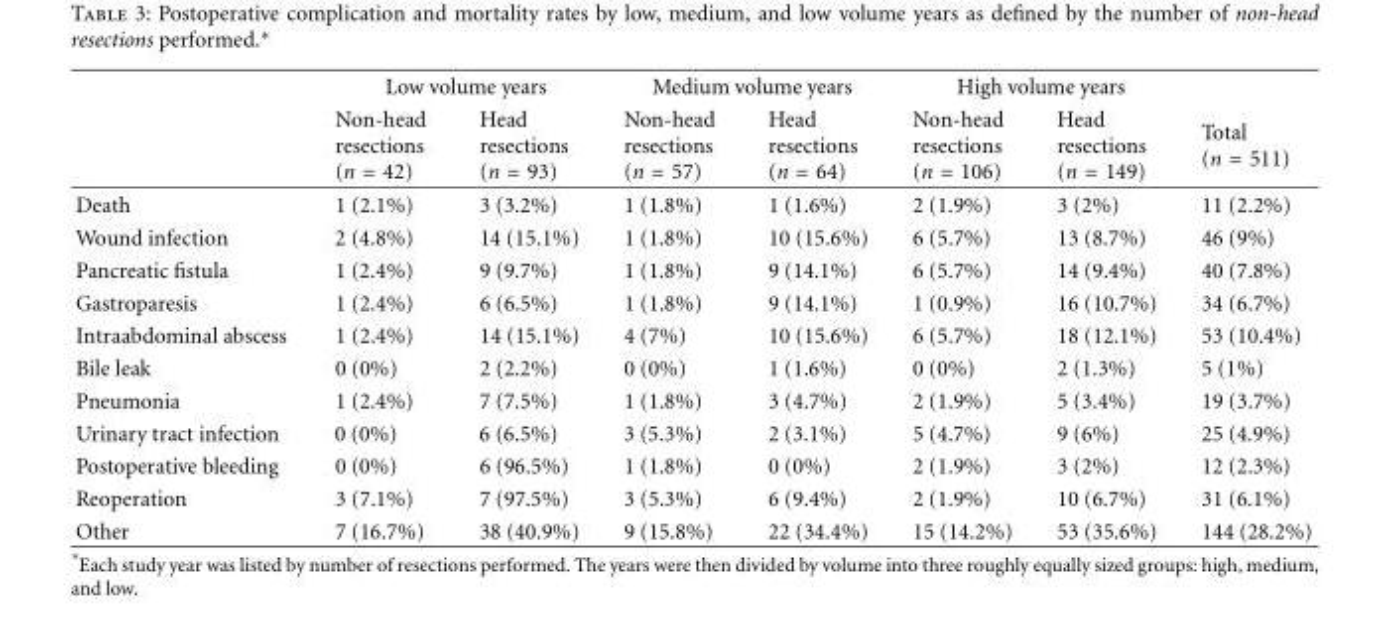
<table><thead><tr><td rowspan="2"></td><td colspan="2">Low volume years</td><td colspan="2">Medium volume years</td><td colspan="2">High volume years</td><td rowspan="2">Total (n = 511)</td></tr><tr><td>Non-head resections (n = 42)</td><td>Head resections (n = 93)</td><td>Non-head resections (n = 57)</td><td>Head resections (n = 64)</td><td>Non-head resections (n = 106)</td><td>Head resections (n = 149)</td></tr></thead><tbody><tr><td>Death</td><td>1 (2.1%)</td><td>3 (3.2%)</td><td>1 (1.8%)</td><td>1 (1.6%)</td><td>2 (1.9%)</td><td>3 (2%)</td><td>11 (2.2%)</td></tr><tr><td>Wound infection</td><td>2 (4.8%)</td><td>14 (15.1%)</td><td>1 (1.8%)</td><td>10 (15.6%)</td><td>6 (5.7%)</td><td>13 (8.7%)</td><td>46 (9%)</td></tr><tr><td>Pancreatic fistula</td><td>1 (2.4%)</td><td>9 (9.7%)</td><td>1 (1.8%)</td><td>9 (14.1%)</td><td>6 (5.7%)</td><td>14 (9.4%)</td><td>40 (7.8%)</td></tr><tr><td>Gastroparesis</td><td>1 (2.4%)</td><td>6 (6.5%)</td><td>1 (1.8%)</td><td>9 (14.1%)</td><td>1 (0.9%)</td><td>16 (10.7%)</td><td>34 (6.7%)</td></tr><tr><td>Intraabdominal abscess</td><td>1 (2.4%)</td><td>14 (15.1%)</td><td>4 (7%)</td><td>10 (15.6%)</td><td>6 (5.7%)</td><td>18 (12.1%)</td><td>53 (10.4%)</td></tr><tr><td>Bile leak</td><td>0 (0%)</td><td>2 (2.2%)</td><td>0 (0%)</td><td>1 (1.6%)</td><td>0 (0%)</td><td>2 (1.3%)</td><td>5 (1%)</td></tr><tr><td>Pneumonia</td><td>1 (2.4%)</td><td>7 (7.5%)</td><td>1 (1.8%)</td><td>3 (4.7%)</td><td>2 (1.9%)</td><td>5 (3.4%)</td><td>19 (3.7%)</td></tr><tr><td>Urinary tract infection</td><td>0 (0%)</td><td>6 (6.5%)</td><td>3 (5.3%)</td><td>2 (3.1%)</td><td>5 (4.7%)</td><td>9 (6%)</td><td>25 (4.9%)</td></tr><tr><td>Postoperative bleeding</td><td>0 (0%)</td><td>6 (96.5%)</td><td>1 (1.8%)</td><td>0 (0%)</td><td>2 (1.9%)</td><td>3 (2%)</td><td>12 (2.3%)</td></tr><tr><td>Reoperation</td><td>3 (7.1%)</td><td>7 (97.5%)</td><td>3 (5.3%)</td><td>6 (9.4%)</td><td>2 (1.9%)</td><td>10 (6.7%)</td><td>31 (6.1%)</td></tr><tr><td>Other</td><td>7 (16.7%)</td><td>38 (40.9%)</td><td>9 (15.8%)</td><td>22 (34.4%)</td><td>15 (14.2%)</td><td>53 (35.6%)</td><td>144 (28.2%)</td></tr></tbody></table>